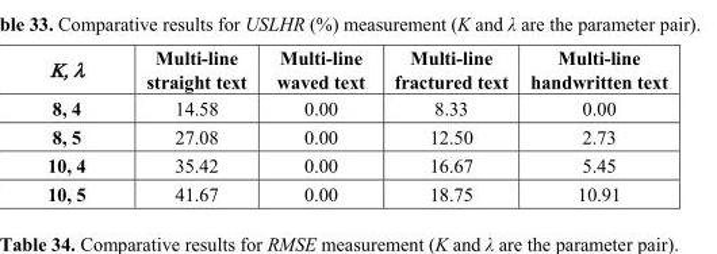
<table><thead><tr><td>Κ, λ</td><td>Multi-line straight text</td><td>Multi-line waved text</td><td>Multi-line fractured text</td><td>Multi-line handwritten text</td></tr></thead><tbody><tr><td>8, 4</td><td>14.58</td><td>0.00</td><td>8.33</td><td>0.00</td></tr><tr><td>8, 5</td><td>27.08</td><td>0.00</td><td>12.50</td><td>2.73</td></tr><tr><td>10, 4</td><td>35.42</td><td>0.00</td><td>16.67</td><td>5.45</td></tr><tr><td>10, 5</td><td>41.67</td><td>0.00</td><td>18.75</td><td>10.91</td></tr></tbody></table>